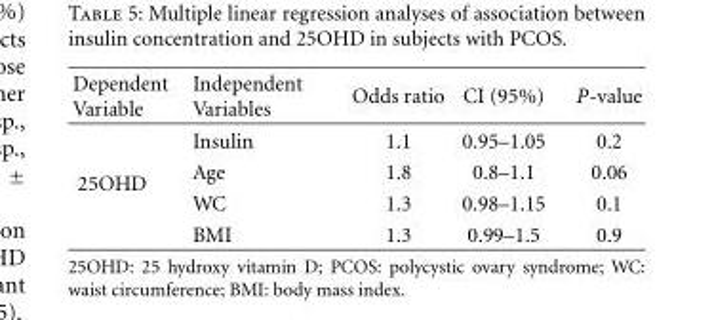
<table><thead><tr><td>Dependent Variable</td><td>Independent Variables</td><td>Odds ratio</td><td>CI (95%)</td><td>P-value</td></tr></thead><tbody><tr><td rowspan="4">25OHD</td><td>Insulin</td><td>1.1</td><td>0.95–1.05</td><td>0.2</td></tr><tr><td>Age</td><td>1.8</td><td>0.8–1.1</td><td>0.06</td></tr><tr><td>WC</td><td>1.3</td><td>0.98–1.15</td><td>0.1</td></tr><tr><td>BMI</td><td>1.3</td><td>0.99–1.5</td><td>0.9</td></tr></tbody></table>